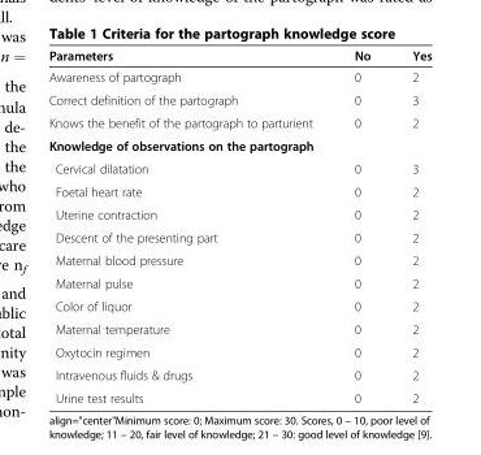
<table><thead><tr><td>Parameters</td><td>No</td><td>Yes</td></tr></thead><tbody><tr><td>Awareness of partograph</td><td>0</td><td>2</td></tr><tr><td>Correct definition of the partograph</td><td>0</td><td>3</td></tr><tr><td>Knows the benefit of the partograph to parturient</td><td>0</td><td>2</td></tr><tr><td colspan="3">Knowledge of observations on the partograph</td></tr><tr><td>Cervical dilatation</td><td>0</td><td>3</td></tr><tr><td>Foetal heart rate</td><td>0</td><td>2</td></tr><tr><td>Uterine contraction</td><td>0</td><td>2</td></tr><tr><td>Descent of the presenting part</td><td>0</td><td>2</td></tr><tr><td>Maternal blood pressure</td><td>0</td><td>2</td></tr><tr><td>Maternal pulse</td><td>0</td><td>2</td></tr><tr><td>Color of liquor</td><td>0</td><td>2</td></tr><tr><td>Maternal temperature</td><td>0</td><td>2</td></tr><tr><td>Oxytocin regimen</td><td>0</td><td>2</td></tr><tr><td>Intravenous fluids &amp; drugs</td><td>0</td><td>2</td></tr><tr><td>Urine test results</td><td>0</td><td>2</td></tr></tbody></table>